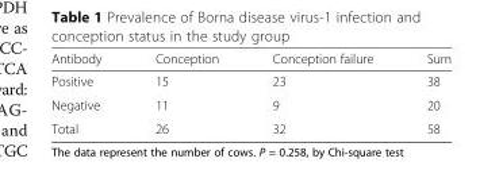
<table><thead><tr><td>Antibody</td><td>Conception</td><td>Conception failure</td><td>Sum</td></tr></thead><tbody><tr><td>Positive</td><td>15</td><td>23</td><td>38</td></tr><tr><td>Negative</td><td>11</td><td>9</td><td>20</td></tr><tr><td>Total</td><td>26</td><td>32</td><td>58</td></tr></tbody></table>